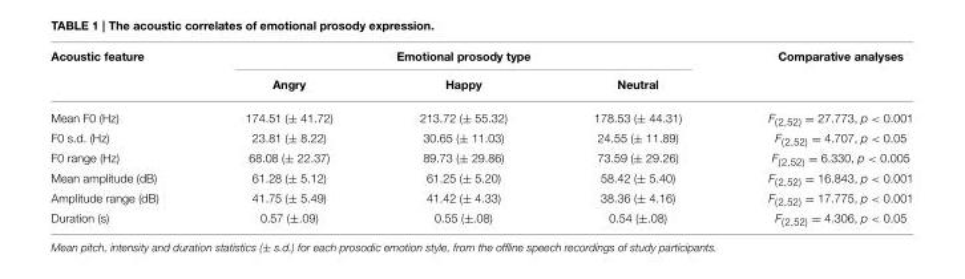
<table><thead><tr><td rowspan="2">Acoustic feature</td><td colspan="3">Emotional prosody type</td><td rowspan="2">Comparative analyses</td></tr><tr><td>Angry</td><td>Happy</td><td>Neutral</td></tr></thead><tbody><tr><td>Mean F0 (Hz)</td><td>174.51 (± 41.72)</td><td>213.72 (± 55.32)</td><td>178.53 (± 44.31)</td><td>F<sub>(2,52)</sub> = 27.773, p &lt; 0.001</td></tr><tr><td>F0 s.d. (Hz)</td><td>23.81 (± 8.22)</td><td>30.65 (± 11.03)</td><td>24.55 (± 11.89)</td><td>F<sub>(2,52)</sub> = 4.707, p &lt; 0.05</td></tr><tr><td>F0 range (Hz)</td><td>68.08 (± 22.37)</td><td>89.73 (± 29.86)</td><td>73.59 (± 29.26)</td><td>F<sub>(2,52)</sub> = 6.330, p &lt; 0.005</td></tr><tr><td>Mean amplitude (dB)</td><td>61.28 (± 5.12)</td><td>61.25 (± 5.20)</td><td>58.42 (± 5.40)</td><td>F<sub>(2,52)</sub> = 16.843, p &lt; 0.001</td></tr><tr><td>Amplitude range (dB)</td><td>41.75 (± 5.49)</td><td>41.42 (± 4.33)</td><td>38.36 (± 4.16)</td><td>F<sub>(2,52)</sub> = 17.775, p &lt; 0.001</td></tr><tr><td>Duration (s)</td><td>0.57 (±.09)</td><td>0.55 (±.08)</td><td>0.54 (±.08)</td><td>F<sub>(2,52)</sub> = 4.306, p &lt; 0.05</td></tr></tbody></table>